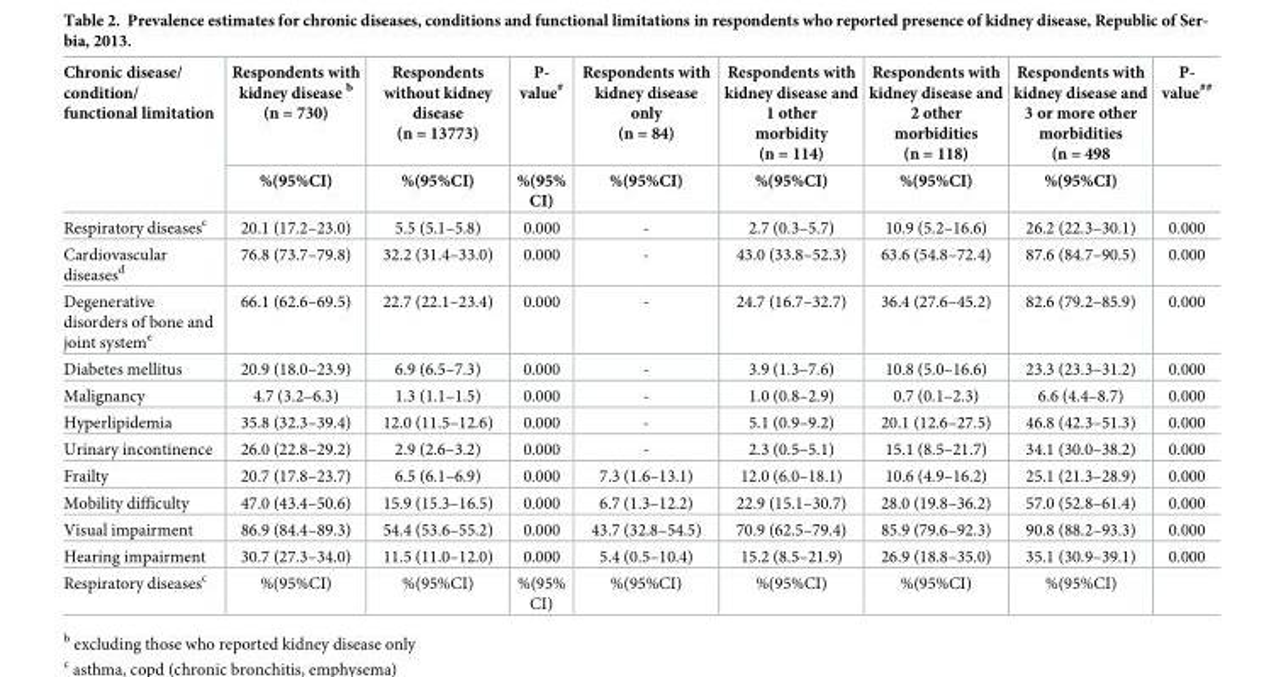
<table><thead><tr><td rowspan="2">Chronic disease/ condition/ functional limitation</td><td rowspan="2">Respondents with kidney disease <sup>b</sup> (n = 730) %(95%CI)</td><td rowspan="2">Respondents without kidney disease (n = 13773) %(95%CI)</td><td rowspan="2">P- value<sup>#</sup> %(95% CI)</td><td rowspan="2">Respondents with kidney disease only (n = 84) %(95%CI)</td><td rowspan="2">Respondents with kidney disease and 1 other morbidity (n = 114) %(95%CI)</td><td rowspan="2">Respondents with kidney disease and 2 other morbidities (n = 118) %(95%CI)</td><td rowspan="2">Respondents with kidney disease and 3 or more other morbidities (n = 498 %(95%CI)</td><td rowspan="2">P- value<sup>##</sup></td></tr><tr></tr></thead><tbody><tr><td>Respiratory diseases<sup>c</sup></td><td>20.1 (17.2–23.0)</td><td>5.5 (5.1–5.8)</td><td>0.000</td><td>-</td><td>2.7 (0.3–5.7)</td><td>10.9 (5.2–16.6)</td><td>26.2 (22.3–30.1)</td><td>0.000</td></tr><tr><td>Cardiovascular diseases<sup>d</sup></td><td>76.8 (73.7–79.8)</td><td>32.2 (31.4–33.0)</td><td>0.000</td><td>-</td><td>43.0 (33.8–52.3)</td><td>63.6 (54.8–72.4)</td><td>87.6 (84.7–90.5)</td><td>0.000</td></tr><tr><td>Degenerative disorders of bone and joint system<sup>e</sup></td><td>66.1 (62.6–69.5)</td><td>22.7 (22.1–23.4)</td><td>0.000</td><td>-</td><td>24.7 (16.7–32.7)</td><td>36.4 (27.6–45.2)</td><td>82.6 (79.2–85.9)</td><td>0.000</td></tr><tr><td>Diabetes mellitus</td><td>20.9 (18.0–23.9)</td><td>6.9 (6.5–7.3)</td><td>0.000</td><td>-</td><td>3.9 (1.3–7.6)</td><td>10.8 (5.0–16.6)</td><td>23.3 (23.3–31.2)</td><td>0.000</td></tr><tr><td>Malignancy</td><td>4.7 (3.2–6.3)</td><td>1.3 (1.1–1.5)</td><td>0.000</td><td>-</td><td>1.0 (0.8–2.9)</td><td>0.7 (0.1–2.3)</td><td>6.6 (4.4–8.7)</td><td>0.000</td></tr><tr><td>Hyperlipidemia</td><td>35.8 (32.3–39.4)</td><td>12.0 (11.5–12.6)</td><td>0.000</td><td>-</td><td>5.1 (0.9–9.2)</td><td>20.1 (12.6–27.5)</td><td>46.8 (42.3–51.3)</td><td>0.000</td></tr><tr><td>Urinary incontinence</td><td>26.0 (22.8–29.2)</td><td>2.9 (2.6–3.2)</td><td>0.000</td><td>-</td><td>2.3 (0.5–5.1)</td><td>15.1 (8.5–21.7)</td><td>34.1 (30.0–38.2)</td><td>0.000</td></tr><tr><td>Frailty</td><td>20.7 (17.8–23.7)</td><td>6.5 (6.1–6.9)</td><td>0.000</td><td>7.3 (1.6–13.1)</td><td>12.0 (6.0–18.1)</td><td>10.6 (4.9–16.2)</td><td>25.1 (21.3–28.9)</td><td>0.000</td></tr><tr><td>Mobility difficulty</td><td>47.0 (43.4–50.6)</td><td>15.9 (15.3–16.5)</td><td>0.000</td><td>6.7 (1.3–12.2)</td><td>22.9 (15.1–30.7)</td><td>28.0 (19.8–36.2)</td><td>57.0 (52.8–61.4)</td><td>0.000</td></tr><tr><td>Visual impairment</td><td>86.9 (84.4–89.3)</td><td>54.4 (53.6–55.2)</td><td>0.000</td><td>43.7 (32.8–54.5)</td><td>70.9 (62.5–79.4)</td><td>85.9 (79.6–92.3)</td><td>90.8 (88.2–93.3)</td><td>0.000</td></tr><tr><td>Hearing impairment</td><td>30.7 (27.3–34.0)</td><td>11.5 (11.0–12.0)</td><td>0.000</td><td>5.4 (0.5–10.4)</td><td>15.2 (8.5–21.9)</td><td>26.9 (18.8–35.0)</td><td>35.1 (30.9–39.1)</td><td>0.000</td></tr><tr><td>Respiratory diseases<sup>c</sup></td><td>%(95%CI)</td><td>%(95%CI)</td><td>%(95% CI)</td><td>%(95%CI)</td><td>%(95%CI)</td><td>%(95%CI)</td><td>%(95%CI)</td><td></td></tr></tbody></table>